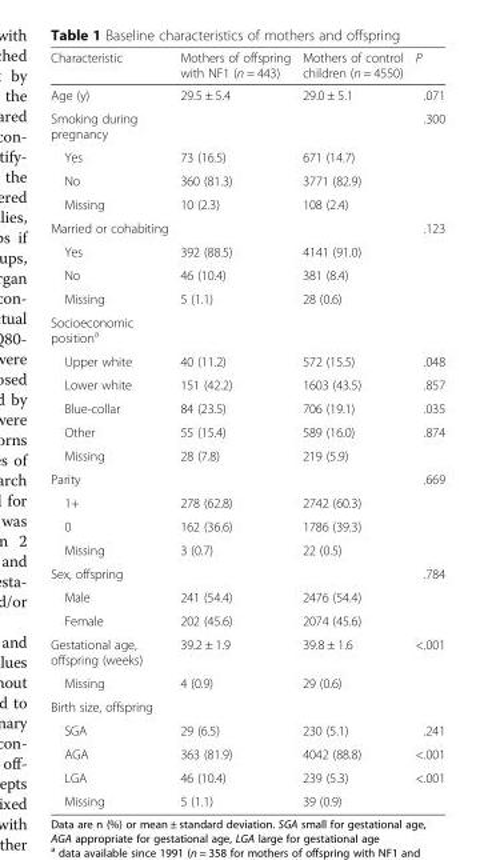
<table><thead><tr><td>Characteristic</td><td>Mothers of offspring with NF1 (n = 443)</td><td>Mothers of control children (n = 4550)</td><td>P</td></tr></thead><tbody><tr><td>Age (y)</td><td>29.5 ± 5.4</td><td>29.0 ± 5.1</td><td>.071</td></tr><tr><td>Smoking during pregnancy</td><td></td><td></td><td>.300</td></tr><tr><td>Yes</td><td>73 (16.5)</td><td>671 (14.7)</td><td></td></tr><tr><td>No</td><td>360 (81.3)</td><td>3771 (82.9)</td><td></td></tr><tr><td>Missing</td><td>10 (2.3)</td><td>108 (2.4)</td><td></td></tr><tr><td>Married or cohabiting</td><td></td><td></td><td>.123</td></tr><tr><td>Yes</td><td>392 (88.5)</td><td>4141 (91.0)</td><td></td></tr><tr><td>No</td><td>46 (10.4)</td><td>381 (8.4)</td><td></td></tr><tr><td>Missing</td><td>5 (1.1)</td><td>28 (0.6)</td><td></td></tr><tr><td colspan="4">Socioeconomic position<sup>a</sup></td></tr><tr><td>Upper white</td><td>40 (11.2)</td><td>572 (15.5)</td><td>.048</td></tr><tr><td>Lower white</td><td>151 (42.2)</td><td>1603 (43.5)</td><td>.857</td></tr><tr><td>Blue-collar</td><td>84 (23.5)</td><td>706 (19.1)</td><td>.035</td></tr><tr><td>Other</td><td>55 (15.4)</td><td>589 (16.0)</td><td>.874</td></tr><tr><td>Missing</td><td>28 (7.8)</td><td>219 (5.9)</td><td></td></tr><tr><td>Parity</td><td></td><td></td><td>.669</td></tr><tr><td>1+</td><td>278 (62.8)</td><td>2742 (60.3)</td><td></td></tr><tr><td>0</td><td>162 (36.6)</td><td>1786 (39.3)</td><td></td></tr><tr><td>Missing</td><td>3 (0.7)</td><td>22 (0.5)</td><td></td></tr><tr><td>Sex, offspring</td><td></td><td></td><td>.784</td></tr><tr><td>Male</td><td>241 (54.4)</td><td>2476 (54.4)</td><td></td></tr><tr><td>Female</td><td>202 (45.6)</td><td>2074 (45.6)</td><td></td></tr><tr><td>Gestational age, offspring (weeks)</td><td>39.2 ± 1.9</td><td>39.8 ± 1.6</td><td>&lt;.001</td></tr><tr><td>Missing</td><td>4 (0.9)</td><td>29 (0.6)</td><td></td></tr><tr><td colspan="4">Birth size, offspring</td></tr><tr><td>SGA</td><td>29 (6.5)</td><td>230 (5.1)</td><td>.241</td></tr><tr><td>AGA</td><td>363 (81.9)</td><td>4042 (88.8)</td><td>&lt;.001</td></tr><tr><td>LGA</td><td>46 (10.4)</td><td>239 (5.3)</td><td>&lt;.001</td></tr><tr><td>Missing</td><td>5 (1.1)</td><td>39 (0.9)</td><td></td></tr></tbody></table>